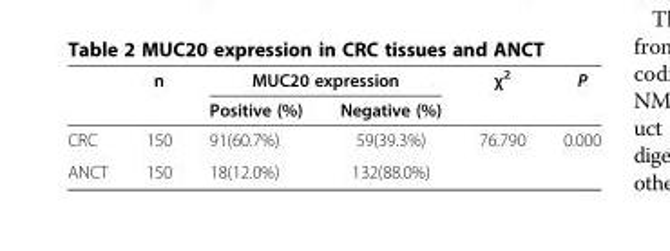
<table><thead><tr><td rowspan="2"></td><td rowspan="2">n</td><td colspan="2">MUC20 expression</td><td rowspan="2">χ<sup>2</sup></td><td rowspan="2">P</td></tr><tr><td>Positive (%)</td><td>Negative (%)</td></tr></thead><tbody><tr><td>CRC</td><td>150</td><td>91(60.7%)</td><td>59(39.3%)</td><td>76.790</td><td>0.000</td></tr><tr><td>ANCT</td><td>150</td><td>18(12.0%)</td><td>132(88.0%)</td><td></td><td></td></tr></tbody></table>